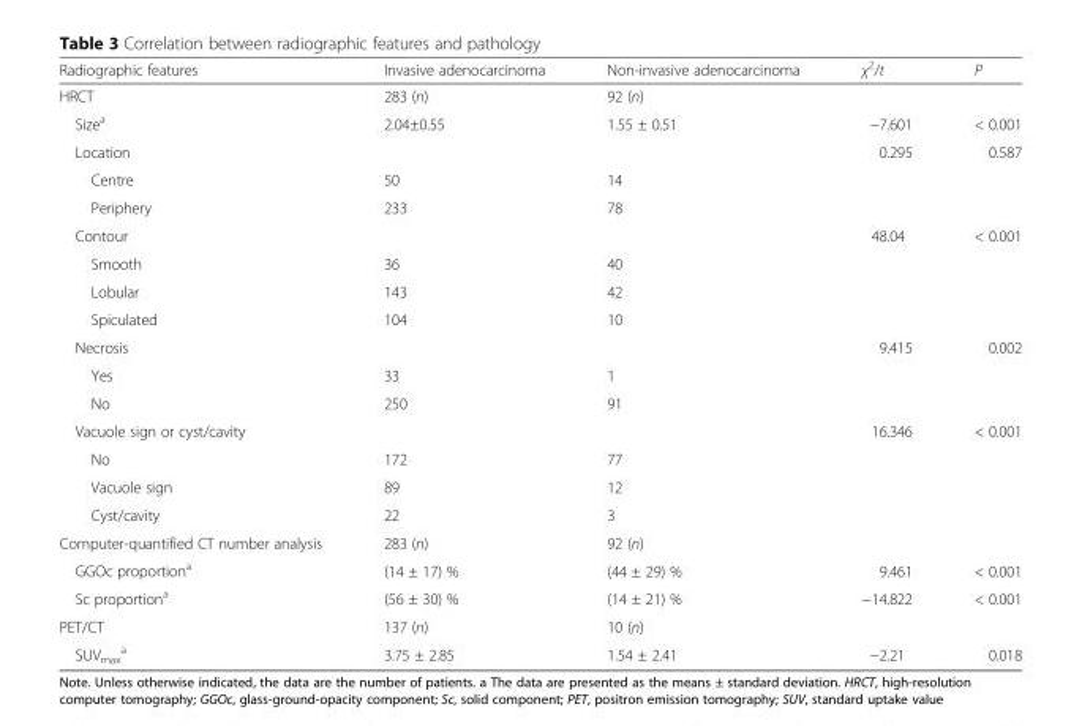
<table><thead><tr><td>Radiographic features</td><td>Invasive adenocarcinoma</td><td>Non-invasive adenocarcinoma</td><td>χ<sup>2</sup>/t</td><td>P</td></tr></thead><tbody><tr><td>HRCT</td><td>283 (n)</td><td>92 (n)</td><td></td><td></td></tr><tr><td>Size<sup>a</sup></td><td>2.04±0.55</td><td>1.55 ± 0.51</td><td>−7.601</td><td>&lt; 0.001</td></tr><tr><td colspan="3">Location</td><td rowspan="3">0.295</td><td rowspan="3">0.587</td></tr><tr><td>Centre</td><td>50</td><td>14</td></tr><tr><td>Periphery</td><td>233</td><td>78</td></tr><tr><td colspan="3">Contour</td><td rowspan="4">48.04</td><td rowspan="4">&lt; 0.001</td></tr><tr><td>Smooth</td><td>36</td><td>40</td></tr><tr><td>Lobular</td><td>143</td><td>42</td></tr><tr><td>Spiculated</td><td>104</td><td>10</td></tr><tr><td colspan="3">Necrosis</td><td rowspan="3">9.415</td><td rowspan="3">0.002</td></tr><tr><td>Yes</td><td>33</td><td>1</td></tr><tr><td>No</td><td>250</td><td>91</td></tr><tr><td colspan="3">Vacuole sign or cyst/cavity</td><td rowspan="4">16.346</td><td rowspan="4">&lt; 0.001</td></tr><tr><td>No</td><td>172</td><td>77</td></tr><tr><td>Vacuole sign</td><td>89</td><td>12</td></tr><tr><td>Cyst/cavity</td><td>22</td><td>3</td></tr><tr><td>Computer-quantified CT number analysis</td><td>283 (n)</td><td>92 (n)</td><td></td><td></td></tr><tr><td>GGOc proportion<sup>a</sup></td><td>(14 ± 17) %</td><td>(44 ± 29) %</td><td>9.461</td><td>&lt; 0.001</td></tr><tr><td>Sc proportion<sup>a</sup></td><td>(56 ± 30) %</td><td>(14 ± 21) %</td><td>−14.822</td><td>&lt; 0.001</td></tr><tr><td>PET/CT</td><td>137 (n)</td><td>10 (n)</td><td></td><td></td></tr><tr><td>SUV<sub>max</sub> <sup>a</sup></td><td>3.75 ± 2.85</td><td>1.54 ± 2.41</td><td>−2.21</td><td>0.018</td></tr></tbody></table>